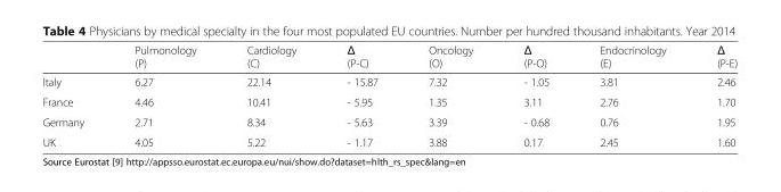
<table><thead><tr><td></td><td>Pulmonology (P)</td><td>Cardiology (C)</td><td>Δ (P-C)</td><td>Oncology (O)</td><td>Δ (P-O)</td><td>Endocrinology (E)</td><td>Δ (P-E)</td></tr></thead><tbody><tr><td>Italy</td><td>6.27</td><td>22.14</td><td>- 15.87</td><td>7.32</td><td>- 1.05</td><td>3.81</td><td>2.46</td></tr><tr><td>France</td><td>4.46</td><td>10.41</td><td>- 5.95</td><td>1.35</td><td>3.11</td><td>2.76</td><td>1.70</td></tr><tr><td>Germany</td><td>2.71</td><td>8.34</td><td>- 5.63</td><td>3.39</td><td>- 0.68</td><td>0.76</td><td>1.95</td></tr><tr><td>UK</td><td>4.05</td><td>5.22</td><td>- 1.17</td><td>3.88</td><td>0.17</td><td>2.45</td><td>1.60</td></tr></tbody></table>